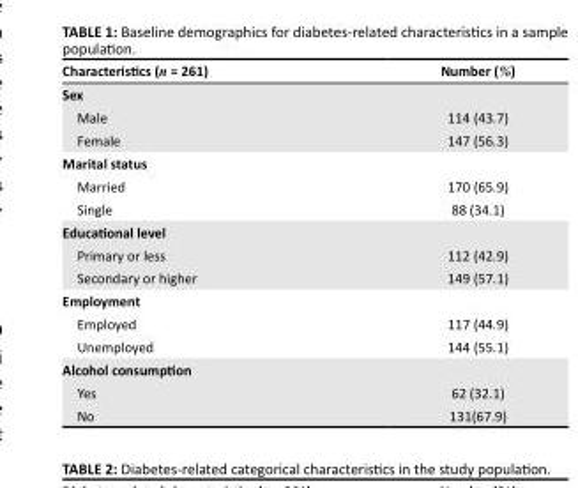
<table><thead><tr><td>Characteristics (n = 261)</td><td>Number (%)</td></tr></thead><tbody><tr><td colspan="2">Sex</td></tr><tr><td>Male</td><td>114 (43.7)</td></tr><tr><td>Female</td><td>147 (56.3)</td></tr><tr><td colspan="2">Marital status</td></tr><tr><td>Married</td><td>170 (65.9)</td></tr><tr><td>Single</td><td>88 (34.1)</td></tr><tr><td colspan="2">Educational level</td></tr><tr><td>Primary or less</td><td>112 (42.9)</td></tr><tr><td>Secondary or higher</td><td>149 (57.1)</td></tr><tr><td colspan="2">Employment</td></tr><tr><td>Employed</td><td>117 (44.9)</td></tr><tr><td>Unemployed</td><td>144 (55.1)</td></tr><tr><td colspan="2">Alcohol consumption</td></tr><tr><td>Yes</td><td>62 (32.1)</td></tr><tr><td>No</td><td>131(67.9)</td></tr></tbody></table>